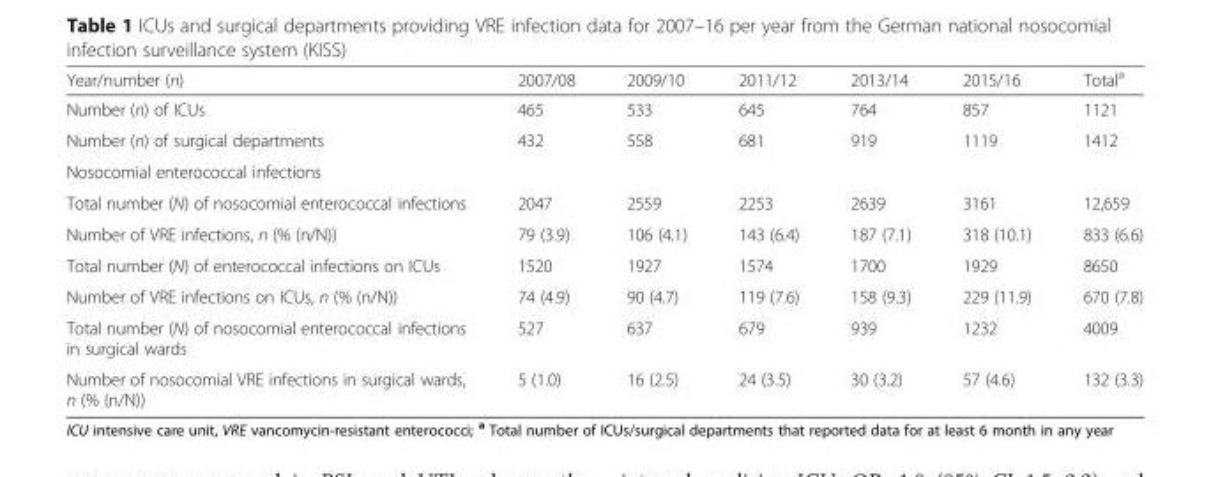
<table><thead><tr><td>Year/number (n)</td><td>2007/08</td><td>2009/10</td><td>2011/12</td><td>2013/14</td><td>2015/16</td><td>Total<sup>a</sup></td></tr></thead><tbody><tr><td>Number (n) of ICUs</td><td>465</td><td>533</td><td>645</td><td>764</td><td>857</td><td>1121</td></tr><tr><td>Number (n) of surgical departments</td><td>432</td><td>558</td><td>681</td><td>919</td><td>1119</td><td>1412</td></tr><tr><td colspan="7">Nosocomial enterococcal infections</td></tr><tr><td>Total number (N) of nosocomial enterococcal infections</td><td>2047</td><td>2559</td><td>2253</td><td>2639</td><td>3161</td><td>12,659</td></tr><tr><td>Number of VRE infections, n (% (n/N))</td><td>79 (3.9)</td><td>106 (4.1)</td><td>143 (6.4)</td><td>187 (7.1)</td><td>318 (10.1)</td><td>833 (6.6)</td></tr><tr><td>Total number (N) of enterococcal infections on ICUs</td><td>1520</td><td>1927</td><td>1574</td><td>1700</td><td>1929</td><td>8650</td></tr><tr><td>Number of VRE infections on ICUs, n (% (n/N))</td><td>74 (4.9)</td><td>90 (4.7)</td><td>119 (7.6)</td><td>158 (9.3)</td><td>229 (11.9)</td><td>670 (7.8)</td></tr><tr><td>Total number (N) of nosocomial enterococcal infections in surgical wards</td><td>527</td><td>637</td><td>679</td><td>939</td><td>1232</td><td>4009</td></tr><tr><td>Number of nosocomial VRE infections in surgical wards, n (% (n/N))</td><td>5 (1.0)</td><td>16 (2.5)</td><td>24 (3.5)</td><td>30 (3.2)</td><td>57 (4.6)</td><td>132 (3.3)</td></tr></tbody></table>